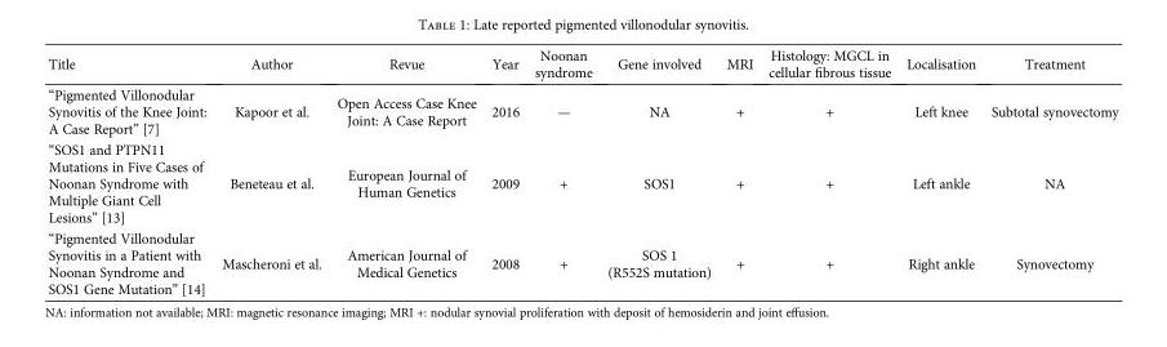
<table><thead><tr><td>Title</td><td>Author</td><td>Revue</td><td>Year</td><td>Noonan syndrome</td><td>Gene involved</td><td>MRI</td><td>Histology: MGCL in cellular fibrous tissue</td><td>Localisation</td><td>Treatment</td></tr></thead><tbody><tr><td>“Pigmented Villonodular Synovitis of the Knee Joint: A Case Report” [7]</td><td>Kapoor et al.</td><td>Open Access Case Knee Joint: A Case Report</td><td>2016</td><td>—</td><td>NA</td><td>+</td><td>+</td><td>Left knee</td><td>Subtotal synovectomy</td></tr><tr><td>“SOS1 and PTPN11 Mutations in Five Cases of Noonan Syndrome with Multiple Giant Cell Lesions” [13]</td><td>Beneteau et al.</td><td>European Journal of Human Genetics</td><td>2009</td><td>+</td><td>SOS1</td><td>+</td><td>+</td><td>Left ankle</td><td>NA</td></tr><tr><td>“Pigmented Villonodular Synovitis in a Patient with Noonan Syndrome and SOS1 Gene Mutation” [14]</td><td>Mascheroni et al.</td><td>American Journal of Medical Genetics</td><td>2008</td><td>+</td><td>SOS 1 (R552S mutation)</td><td>+</td><td>+</td><td>Right ankle</td><td>Synovectomy</td></tr></tbody></table>